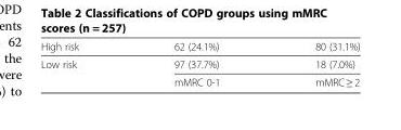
<table><tbody><tr><td>High risk</td><td>62 (24.1%)</td><td>80 (31.1%)</td></tr><tr><td rowspan="2">Low risk</td><td>97 (37.7%)</td><td>18 (7.0%)</td></tr><tr><td>mMRC 0-1</td><td>mMRC ≥ 2</td></tr></tbody></table>